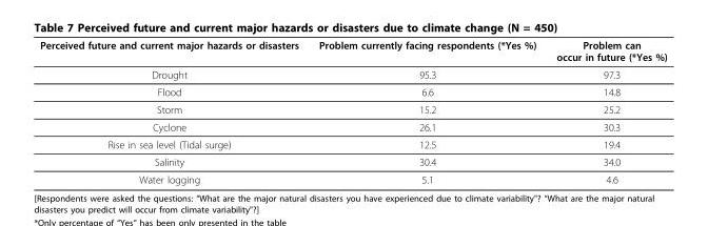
<table><thead><tr><td>Perceived future and current major hazards or disasters</td><td>Problem currently facing respondents (*Yes %)</td><td>Problem can occur in future (*Yes %)</td></tr></thead><tbody><tr><td>Drought</td><td>95.3</td><td>97.3</td></tr><tr><td>Flood</td><td>6.6</td><td>14.8</td></tr><tr><td>Storm</td><td>15.2</td><td>25.2</td></tr><tr><td>Cyclone</td><td>26.1</td><td>30.3</td></tr><tr><td>Rise in sea level (Tidal surge)</td><td>12.5</td><td>19.4</td></tr><tr><td>Salinity</td><td>30.4</td><td>34.0</td></tr><tr><td>Water logging</td><td>5.1</td><td>4.6</td></tr></tbody></table>